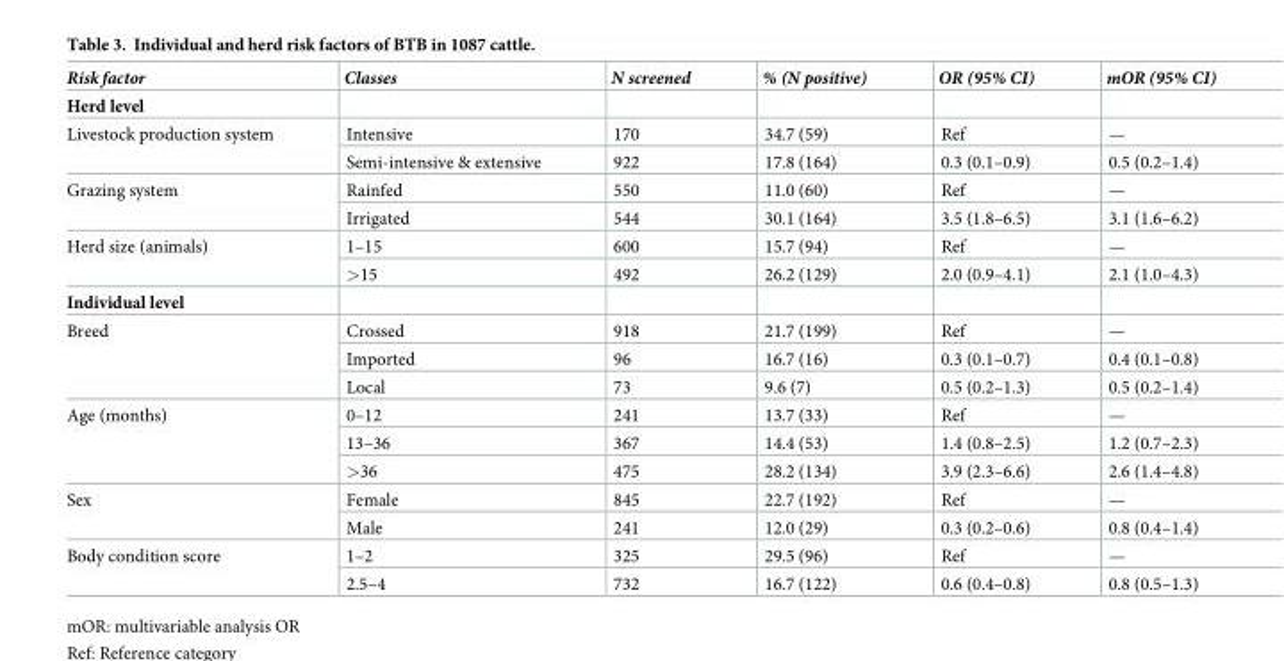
<table><thead><tr><td>Risk factor</td><td>Classes</td><td>N screened</td><td>% (N positive)</td><td>OR (95% CI)</td><td>mOR (95% CI)</td></tr></thead><tbody><tr><td colspan="6">Herd level</td></tr><tr><td rowspan="2">Livestock production system</td><td>Intensive</td><td>170</td><td>34.7 (59)</td><td>Ref</td><td>—</td></tr><tr><td>Semi-intensive &amp; extensive</td><td>922</td><td>17.8 (164)</td><td>0.3 (0.1–0.9)</td><td>0.5 (0.2–1.4)</td></tr><tr><td rowspan="2">Grazing system</td><td>Rainfed</td><td>550</td><td>11.0 (60)</td><td>Ref</td><td>—</td></tr><tr><td>Irrigated</td><td>544</td><td>30.1 (164)</td><td>3.5 (1.8–6.5)</td><td>3.1 (1.6–6.2)</td></tr><tr><td rowspan="2">Herd size (animals)</td><td>1–15</td><td>600</td><td>15.7 (94)</td><td>Ref</td><td>—</td></tr><tr><td>&gt;15</td><td>492</td><td>26.2 (129)</td><td>2.0 (0.9–4.1)</td><td>2.1 (1.0–4.3)</td></tr><tr><td colspan="6">Individual level</td></tr><tr><td rowspan="3">Breed</td><td>Crossed</td><td>918</td><td>21.7 (199)</td><td>Ref</td><td>—</td></tr><tr><td>Imported</td><td>96</td><td>16.7 (16)</td><td>0.3 (0.1–0.7)</td><td>0.4 (0.1–0.8)</td></tr><tr><td>Local</td><td>73</td><td>9.6 (7)</td><td>0.5 (0.2–1.3)</td><td>0.5 (0.2–1.4)</td></tr><tr><td rowspan="3">Age (months)</td><td>0–12</td><td>241</td><td>13.7 (33)</td><td>Ref</td><td>—</td></tr><tr><td>13–36</td><td>367</td><td>14.4 (53)</td><td>1.4 (0.8–2.5)</td><td>1.2 (0.7–2.3)</td></tr><tr><td>&gt;36</td><td>475</td><td>28.2 (134)</td><td>3.9 (2.3–6.6)</td><td>2.6 (1.4–4.8)</td></tr><tr><td rowspan="2">Sex</td><td>Female</td><td>845</td><td>22.7 (192)</td><td>Ref</td><td>—</td></tr><tr><td>Male</td><td>241</td><td>12.0 (29)</td><td>0.3 (0.2–0.6)</td><td>0.8 (0.4–1.4)</td></tr><tr><td rowspan="2">Body condition score</td><td>1–2</td><td>325</td><td>29.5 (96)</td><td>Ref</td><td>—</td></tr><tr><td>2.5–4</td><td>732</td><td>16.7 (122)</td><td>0.6 (0.4–0.8)</td><td>0.8 (0.5–1.3)</td></tr></tbody></table>